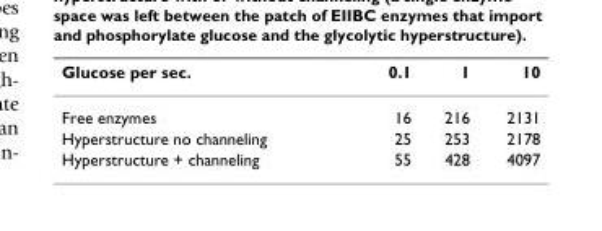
<table><thead><tr><td>Glucose per sec.</td><td>0.1</td><td>1</td><td>10</td></tr></thead><tbody><tr><td>Free enzymes</td><td>16</td><td>216</td><td>2131</td></tr><tr><td>Hyperstructure no channeling</td><td>25</td><td>253</td><td>2178</td></tr><tr><td>Hyperstructure + channeling</td><td>55</td><td>428</td><td>4097</td></tr></tbody></table>